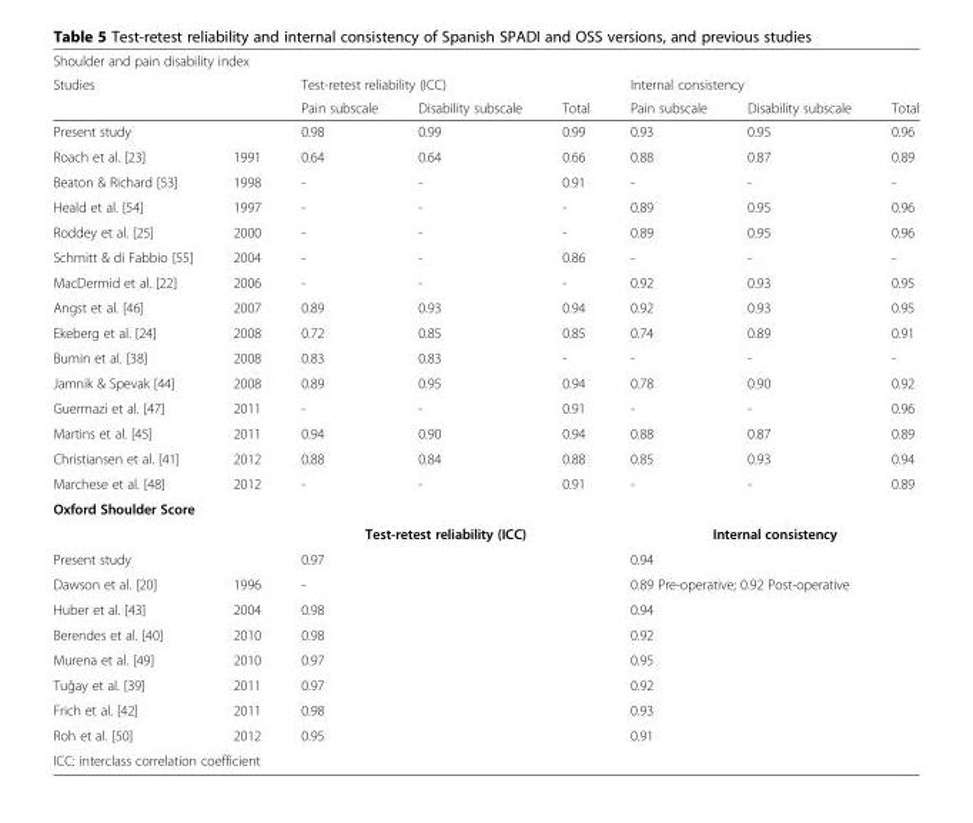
<table><thead><tr><td colspan="8">Shoulder and pain disability index</td></tr><tr><td rowspan="2" colspan="2">Studies</td><td colspan="3">Test-retest reliability (ICC)</td><td colspan="3">Internal consistency</td></tr><tr><td rowspan="2">Pain subscale 0.98</td><td rowspan="2">Disability subscale 0.99</td><td rowspan="2">Total 0.99</td><td rowspan="2">Pain subscale 0.93</td><td rowspan="2">Disability subscale 0.95</td><td rowspan="2">Total 0.96</td></tr><tr><td>Present study</td><td></td></tr></thead><tbody><tr><td>Roach et al. [23]</td><td>1991</td><td>0.64</td><td>0.64</td><td>0.66</td><td>0.88</td><td>0.87</td><td>0.89</td></tr><tr><td>Beaton &amp; Richard [53]</td><td>1998</td><td>-</td><td>-</td><td>0.91</td><td>-</td><td>-</td><td>-</td></tr><tr><td>Heald et al. [54]</td><td>1997</td><td>-</td><td>-</td><td>-</td><td>0.89</td><td>0.95</td><td>0.96</td></tr><tr><td>Roddey et al. [25]</td><td>2000</td><td>-</td><td>-</td><td>-</td><td>0.89</td><td>0.95</td><td>0.96</td></tr><tr><td>Schmitt &amp; di Fabbio [55]</td><td>2004</td><td>-</td><td>-</td><td>0.86</td><td>-</td><td>-</td><td>-</td></tr><tr><td>MacDermid et al. [22]</td><td>2006</td><td>-</td><td>-</td><td>-</td><td>0.92</td><td>0.93</td><td>0.95</td></tr><tr><td>Angst et al. [46]</td><td>2007</td><td>0.89</td><td>0.93</td><td>0.94</td><td>0.92</td><td>0.93</td><td>0.95</td></tr><tr><td>Ekeberg et al. [24]</td><td>2008</td><td>0.72</td><td>0.85</td><td>0.85</td><td>0.74</td><td>0.89</td><td>0.91</td></tr><tr><td>Bumin et al. [38]</td><td>2008</td><td>0.83</td><td>0.83</td><td>-</td><td>-</td><td>-</td><td>-</td></tr><tr><td>Jamnik &amp; Spevak [44]</td><td>2008</td><td>0.89</td><td>0.95</td><td>0.94</td><td>0.78</td><td>0.90</td><td>0.92</td></tr><tr><td>Guermazi et al. [47]</td><td>2011</td><td>-</td><td>-</td><td>0.91</td><td>-</td><td>-</td><td>0.96</td></tr><tr><td>Martins et al. [45]</td><td>2011</td><td>0.94</td><td>0.90</td><td>0.94</td><td>0.88</td><td>0.87</td><td>0.89</td></tr><tr><td>Christiansen et al. [41]</td><td>2012</td><td>0.88</td><td>0.84</td><td>0.88</td><td>0.85</td><td>0.93</td><td>0.94</td></tr><tr><td>Marchese et al. [48]</td><td>2012</td><td>-</td><td>-</td><td>0.91</td><td>-</td><td>-</td><td>0.89</td></tr><tr><td colspan="8">Oxford Shoulder Score</td></tr><tr><td colspan="2"></td><td colspan="3">Test-retest reliability (ICC)</td><td colspan="3">Internal consistency</td></tr><tr><td>Present study</td><td></td><td colspan="3">0.97</td><td colspan="3">0.94</td></tr><tr><td>Dawson et al. [20]</td><td>1996</td><td colspan="3">-</td><td colspan="3">0.89 Pre-operative; 0.92 Post-operative</td></tr><tr><td>Huber et al. [43]</td><td>2004</td><td colspan="3">0.98</td><td colspan="3">0.94</td></tr><tr><td>Berendes et al. [40]</td><td>2010</td><td colspan="3">0.98</td><td colspan="3">0.92</td></tr><tr><td>Murena et al. [49]</td><td>2010</td><td colspan="3">0.97</td><td colspan="3">0.95</td></tr><tr><td>Tuğay et al. [39]</td><td>2011</td><td colspan="3">0.97</td><td colspan="3">0.92</td></tr><tr><td>Frich et al. [42]</td><td>2011</td><td colspan="3">0.98</td><td colspan="3">0.93</td></tr><tr><td>Roh et al. [50]</td><td>2012</td><td colspan="3">0.95</td><td colspan="3">0.91</td></tr><tr><td colspan="8">ICC: interclass correlation coefficient</td></tr></tbody></table>